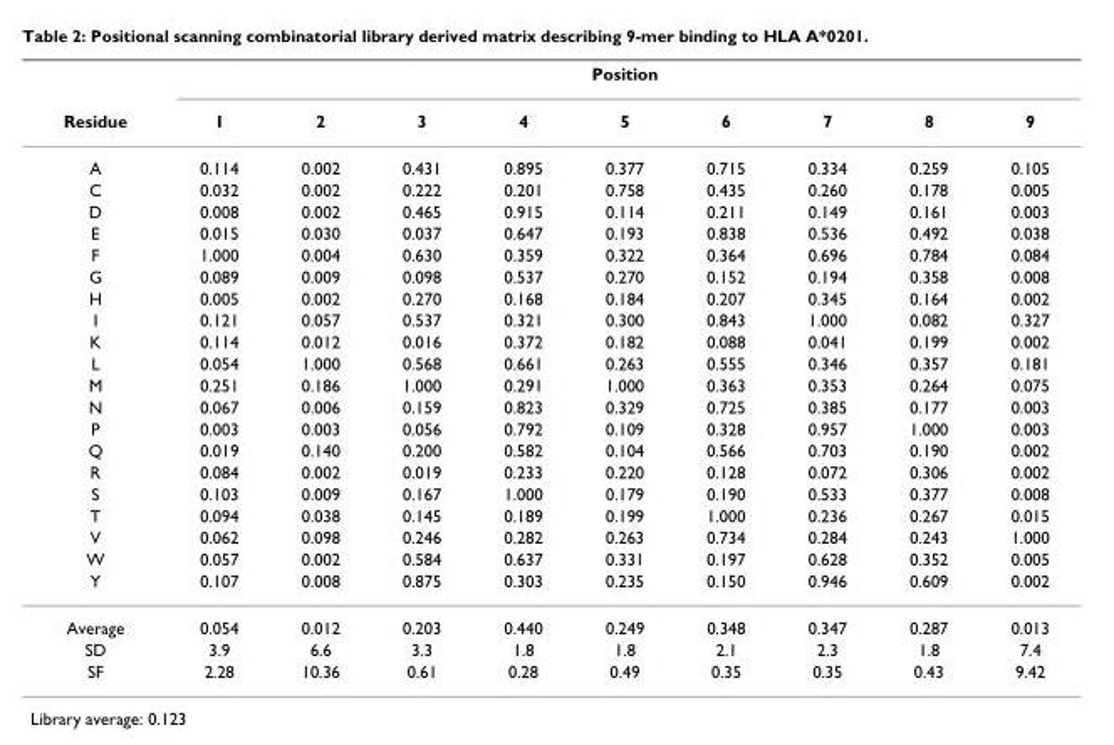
<table><thead><tr><td rowspan="2">Residue</td><td colspan="9">Position</td></tr><tr><td>1</td><td>2</td><td>3</td><td>4</td><td>5</td><td>6</td><td>7</td><td>8</td><td>9</td></tr></thead><tbody><tr><td>A</td><td>0.114</td><td>0.002</td><td>0.431</td><td>0.895</td><td>0.377</td><td>0.715</td><td>0.334</td><td>0.259</td><td>0.105</td></tr><tr><td>C</td><td>0.032</td><td>0.002</td><td>0.222</td><td>0.201</td><td>0.758</td><td>0.435</td><td>0.260</td><td>0.178</td><td>0.005</td></tr><tr><td>D</td><td>0.008</td><td>0.002</td><td>0.465</td><td>0.915</td><td>0.114</td><td>0.211</td><td>0.149</td><td>0.161</td><td>0.003</td></tr><tr><td>E</td><td>0.015</td><td>0.030</td><td>0.037</td><td>0.647</td><td>0.193</td><td>0.838</td><td>0.536</td><td>0.492</td><td>0.038</td></tr><tr><td>F</td><td>1.000</td><td>0.004</td><td>0.630</td><td>0.359</td><td>0.322</td><td>0.364</td><td>0.696</td><td>0.784</td><td>0.084</td></tr><tr><td>G</td><td>0.089</td><td>0.009</td><td>0.098</td><td>0.537</td><td>0.270</td><td>0.152</td><td>0.194</td><td>0.358</td><td>0.008</td></tr><tr><td>H</td><td>0.005</td><td>0.002</td><td>0.270</td><td>0.168</td><td>0.184</td><td>0.207</td><td>0.345</td><td>0.164</td><td>0.002</td></tr><tr><td>I</td><td>0.121</td><td>0.057</td><td>0.537</td><td>0.321</td><td>0.300</td><td>0.843</td><td>1.000</td><td>0.082</td><td>0.327</td></tr><tr><td>K</td><td>0.114</td><td>0.012</td><td>0.016</td><td>0.372</td><td>0.182</td><td>0.088</td><td>0.041</td><td>0.199</td><td>0.002</td></tr><tr><td>L</td><td>0.054</td><td>1.000</td><td>0.568</td><td>0.661</td><td>0.263</td><td>0.555</td><td>0.346</td><td>0.357</td><td>0.181</td></tr><tr><td>M</td><td>0.251</td><td>0.186</td><td>1.000</td><td>0.291</td><td>1.000</td><td>0.363</td><td>0.353</td><td>0.264</td><td>0.075</td></tr><tr><td>N</td><td>0.067</td><td>0.006</td><td>0.159</td><td>0.823</td><td>0.329</td><td>0.725</td><td>0.385</td><td>0.177</td><td>0.003</td></tr><tr><td>P</td><td>0.003</td><td>0.003</td><td>0.056</td><td>0.792</td><td>0.109</td><td>0.328</td><td>0.957</td><td>1.000</td><td>0.003</td></tr><tr><td>Q</td><td>0.019</td><td>0.140</td><td>0.200</td><td>0.582</td><td>0.104</td><td>0.566</td><td>0.703</td><td>0.190</td><td>0.002</td></tr><tr><td>R</td><td>0.084</td><td>0.002</td><td>0.019</td><td>0.233</td><td>0.220</td><td>0.128</td><td>0.072</td><td>0.306</td><td>0.002</td></tr><tr><td>S</td><td>0.103</td><td>0.009</td><td>0.167</td><td>1.000</td><td>0.179</td><td>0.190</td><td>0.533</td><td>0.377</td><td>0.008</td></tr><tr><td>T</td><td>0.094</td><td>0.038</td><td>0.145</td><td>0.189</td><td>0.199</td><td>1.000</td><td>0.236</td><td>0.267</td><td>0.015</td></tr><tr><td>V</td><td>0.062</td><td>0.098</td><td>0.246</td><td>0.282</td><td>0.263</td><td>0.734</td><td>0.284</td><td>0.243</td><td>1.000</td></tr><tr><td>W</td><td>0.057</td><td>0.002</td><td>0.584</td><td>0.637</td><td>0.331</td><td>0.197</td><td>0.628</td><td>0.352</td><td>0.005</td></tr><tr><td>Y</td><td>0.107</td><td>0.008</td><td>0.875</td><td>0.303</td><td>0.235</td><td>0.150</td><td>0.946</td><td>0.609</td><td>0.002</td></tr><tr><td>Average</td><td>0.054</td><td>0.012</td><td>0.203</td><td>0.440</td><td>0.249</td><td>0.348</td><td>0.347</td><td>0.287</td><td>0.013</td></tr><tr><td>SD</td><td>3.9</td><td>6.6</td><td>3.3</td><td>1.8</td><td>1.8</td><td>2.1</td><td>2.3</td><td>1.8</td><td>7.4</td></tr><tr><td>SF</td><td>2.28</td><td>10.36</td><td>0.61</td><td>0.28</td><td>0.49</td><td>0.35</td><td>0.35</td><td>0.43</td><td>9.42</td></tr></tbody></table>